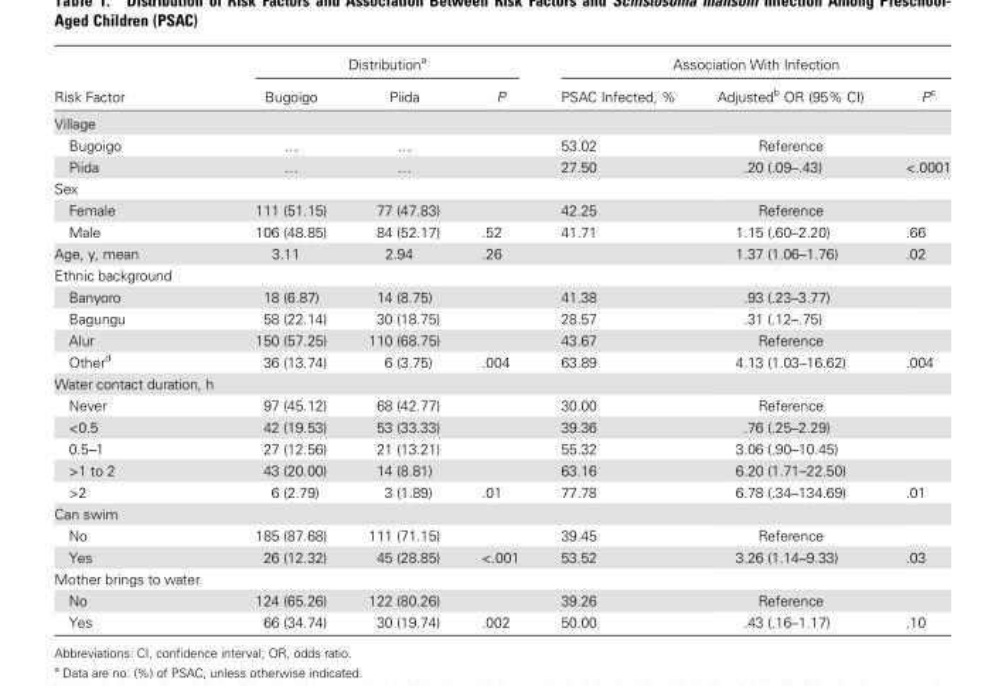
<table><thead><tr><td rowspan="2">Risk Factor</td><td colspan="3">Distribution<sup>a</sup></td><td colspan="3">Association With Infection</td></tr><tr><td>Bugoigo</td><td>Piida</td><td>P</td><td>PSAC Infected, %</td><td>Adjusted<sup>b</sup> OR (95% CI)</td><td>P<sup>c</sup></td></tr></thead><tbody><tr><td colspan="7">Village</td></tr><tr><td>Bugoigo</td><td>…</td><td>…</td><td></td><td>53.02</td><td>Reference</td><td></td></tr><tr><td>Piida</td><td>…</td><td>…</td><td></td><td>27.50</td><td>.20 (.09–.43)</td><td>&lt;.0001</td></tr><tr><td colspan="7">Sex</td></tr><tr><td>Female</td><td>111 (51.15)</td><td>77 (47.83)</td><td></td><td>42.25</td><td>Reference</td><td></td></tr><tr><td>Male</td><td>106 (48.85)</td><td>84 (52.17)</td><td>.52</td><td>41.71</td><td>1.15 (.60–2.20)</td><td>.66</td></tr><tr><td>Age, y, mean</td><td>3.11</td><td>2.94</td><td>.26</td><td></td><td>1.37 (1.06–1.76)</td><td>.02</td></tr><tr><td colspan="7">Ethnic background</td></tr><tr><td>Banyoro</td><td>18 (6.87)</td><td>14 (8.75)</td><td></td><td>41.38</td><td>.93 (.23–3.77)</td><td></td></tr><tr><td>Bagungu</td><td>58 (22.14)</td><td>30 (18.75)</td><td></td><td>28.57</td><td>.31 (.12–.75)</td><td></td></tr><tr><td>Alur</td><td>150 (57.25)</td><td>110 (68.75)</td><td></td><td>43.67</td><td>Reference</td><td></td></tr><tr><td>Other<sup>d</sup></td><td>36 (13.74)</td><td>6 (3.75)</td><td>.004</td><td>63.89</td><td>4.13 (1.03–16.62)</td><td>.004</td></tr><tr><td colspan="7">Water contact duration, h</td></tr><tr><td>Never</td><td>97 (45.12)</td><td>68 (42.77)</td><td></td><td>30.00</td><td>Reference</td><td></td></tr><tr><td>&lt;0.5</td><td>42 (19.53)</td><td>53 (33.33)</td><td></td><td>39.36</td><td>.76 (.25–2.29)</td><td></td></tr><tr><td>0.5–1</td><td>27 (12.56)</td><td>21 (13.21)</td><td></td><td>55.32</td><td>3.06 (.90–10.45)</td><td></td></tr><tr><td>&gt;1 to 2</td><td>43 (20.00)</td><td>14 (8.81)</td><td></td><td>63.16</td><td>6.20 (1.71–22.50)</td><td></td></tr><tr><td>&gt;2</td><td>6 (2.79)</td><td>3 (1.89)</td><td>.01</td><td>77.78</td><td>6.78 (.34–134.69)</td><td>.01</td></tr><tr><td colspan="7">Can swim</td></tr><tr><td>No</td><td>185 (87.68)</td><td>111 (71.15)</td><td></td><td>39.45</td><td>Reference</td><td></td></tr><tr><td>Yes</td><td>26 (12.32)</td><td>45 (28.85)</td><td>&lt;.001</td><td>53.52</td><td>3.26 (1.14–9.33)</td><td>.03</td></tr><tr><td colspan="7">Mother brings to water</td></tr><tr><td>No</td><td>124 (65.26)</td><td>122 (80.26)</td><td></td><td>39.26</td><td>Reference</td><td></td></tr><tr><td>Yes</td><td>66 (34.74)</td><td>30 (19.74)</td><td>.002</td><td>50.00</td><td>.43 (.16–1.17)</td><td>.10</td></tr></tbody></table>